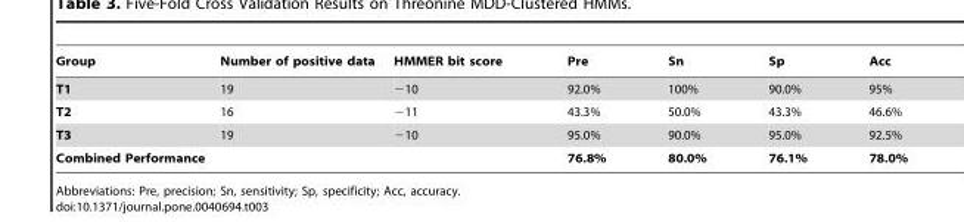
<table><thead><tr><td>Group</td><td>Number of positive data</td><td>HMMER bit score</td><td>Pre</td><td>Sn</td><td>Sp</td><td>Acc</td></tr></thead><tbody><tr><td>T1</td><td>19</td><td>−10</td><td>92.0%</td><td>100%</td><td>90.0%</td><td>95%</td></tr><tr><td>T2</td><td>16</td><td>−11</td><td>43.3%</td><td>50.0%</td><td>43.3%</td><td>46.6%</td></tr><tr><td>T3</td><td>19</td><td>−10</td><td>95.0%</td><td>90.0%</td><td>95.0%</td><td>92.5%</td></tr><tr><td>Combined Performance</td><td></td><td></td><td>76.8%</td><td>80.0%</td><td>76.1%</td><td>78.0%</td></tr></tbody></table>